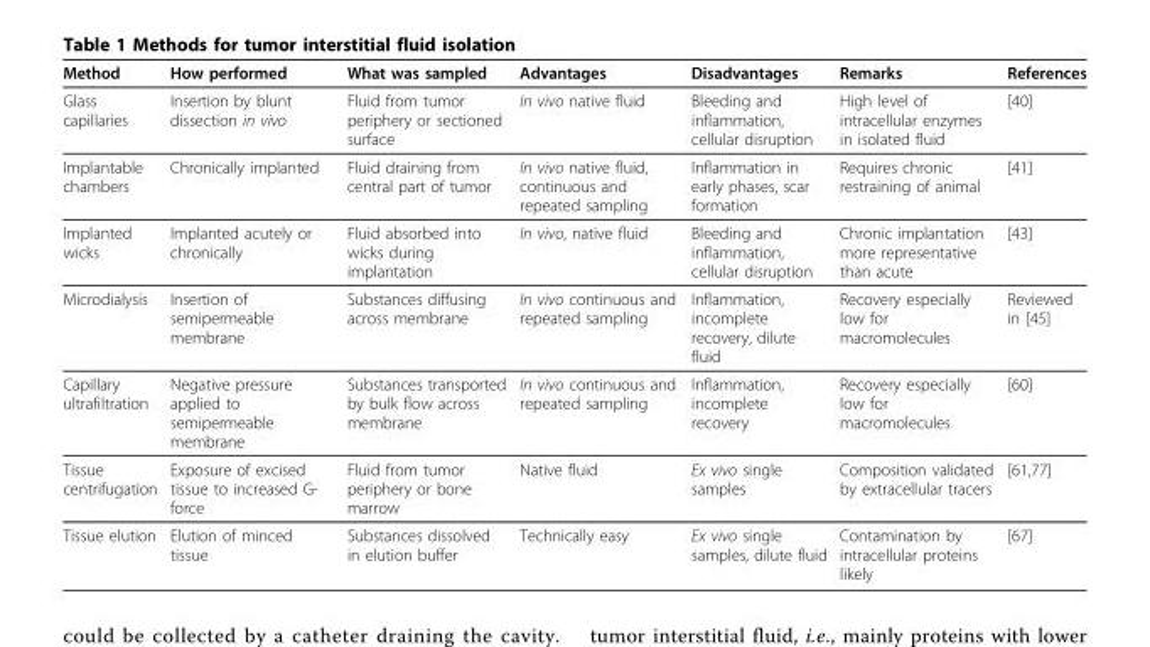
<table><thead><tr><td>Method</td><td>How performed</td><td>What was sampled</td><td>Advantages</td><td>Disadvantages</td><td>Remarks</td><td>References</td></tr></thead><tbody><tr><td>Glass capillaries</td><td>Insertion by blunt dissection in vivo</td><td>Fluid from tumor periphery or sectioned surface</td><td>In vivo native fluid</td><td>Bleeding and inflammation, cellular disruption</td><td>High level of intracellular enzymes in isolated fluid</td><td>[40]</td></tr><tr><td>Implantable chambers</td><td>Chronically implanted</td><td>Fluid draining from central part of tumor</td><td>In vivo native fluid, continuous and repeated sampling</td><td>Inflammation in early phases, scar formation</td><td>Requires chronic restraining of animal</td><td>[41]</td></tr><tr><td>Implanted wicks</td><td>Implanted acutely or chronically</td><td>Fluid absorbed into wicks during implantation</td><td>In vivo, native fluid</td><td>Bleeding and inflammation, cellular disruption</td><td>Chronic implantation more representative than acute</td><td>[43]</td></tr><tr><td>Microdialysis</td><td>Insertion of semipermeable membrane</td><td>Substances diffusing across membrane</td><td>In vivo continuous and repeated sampling</td><td>Inflammation, incomplete recovery, dilute fluid</td><td>Recovery especially low for macromolecules</td><td>Reviewed in [45]</td></tr><tr><td>Capillary ultrafiltration</td><td>Negative pressure applied to semipermeable membrane</td><td>Substances transported by bulk flow across membrane</td><td>In vivo continuous and repeated sampling</td><td>Inflammation, incomplete recovery</td><td>Recovery especially low for macromolecules</td><td>[60]</td></tr><tr><td>Tissue centrifugation</td><td>Exposure of excised tissue to increased G- force</td><td>Fluid from tumor periphery or bone marrow</td><td>Native fluid</td><td>Ex vivo single samples</td><td>Composition validated by extracellular tracers</td><td>[61,77]</td></tr><tr><td>Tissue elution</td><td>Elution of minced tissue</td><td>Substances dissolved in elution buffer</td><td>Technically easy</td><td>Ex vivo single samples, dilute fluid</td><td>Contamination by intracellular proteins likely</td><td>[67]</td></tr></tbody></table>